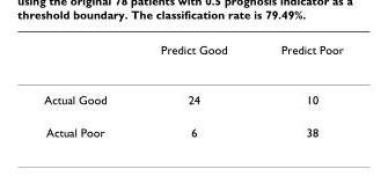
<table><thead><tr><td></td><td>Predict Good</td><td>Predict Poor</td></tr></thead><tbody><tr><td>Actual Good</td><td>24</td><td>10</td></tr><tr><td>Actual Poor</td><td>6</td><td>38</td></tr></tbody></table>